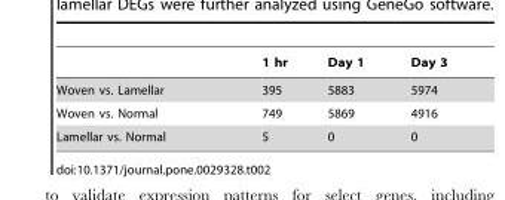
<table><thead><tr><td></td><td>1 hr</td><td>Day 1</td><td>Day 3</td></tr></thead><tbody><tr><td>Woven vs. Lamellar</td><td>395</td><td>5883</td><td>5974</td></tr><tr><td>Woven vs. Normal</td><td>749</td><td>5869</td><td>4916</td></tr><tr><td>Lamellar vs. Normal</td><td>5</td><td>0</td><td>0</td></tr></tbody></table>